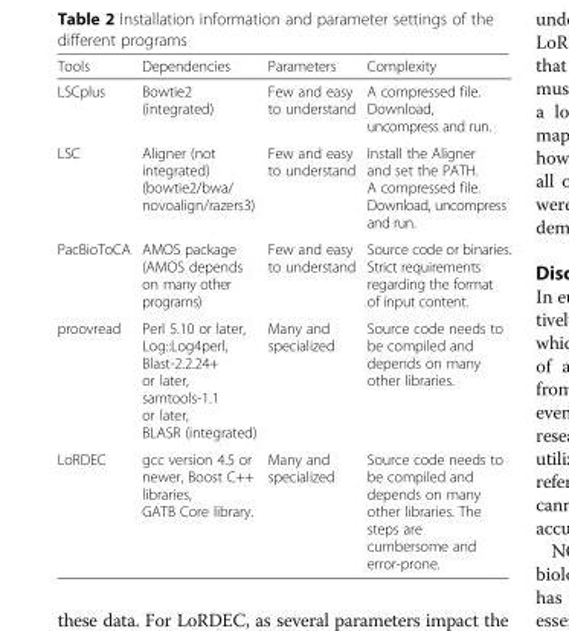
<table><thead><tr><td>Tools</td><td>Dependencies</td><td>Parameters</td><td>Complexity</td></tr></thead><tbody><tr><td>LSCplus</td><td>Bowtie2 (integrated)</td><td>Few and easy to understand</td><td>A compressed file. Download, uncompress and run.</td></tr><tr><td>LSC</td><td>Aligner (not integrated) (bowtie2/bwa/ novoalign/razers3)</td><td>Few and easy to understand</td><td>Install the Aligner and set the PATH. A compressed file. Download, uncompress and run.</td></tr><tr><td>PacBioToCA</td><td>AMOS package (AMOS depends on many other programs)</td><td>Few and easy to understand</td><td>Source code or binaries. Strict requirements regarding the format of input content.</td></tr><tr><td>proovread</td><td>Perl 5.10 or later, Log::Log4perl, Blast-2.2.24+ or later, samtools-1.1 or later, BLASR (integrated)</td><td>Many and specialized</td><td>Source code needs to be compiled and depends on many other libraries.</td></tr><tr><td>LoRDEC</td><td>gcc version 4.5 or newer, Boost C++ libraries, GATB Core library.</td><td>Many and specialized</td><td>Source code needs to be compiled and depends on many other libraries. The steps are cumbersome and error-prone.</td></tr></tbody></table>